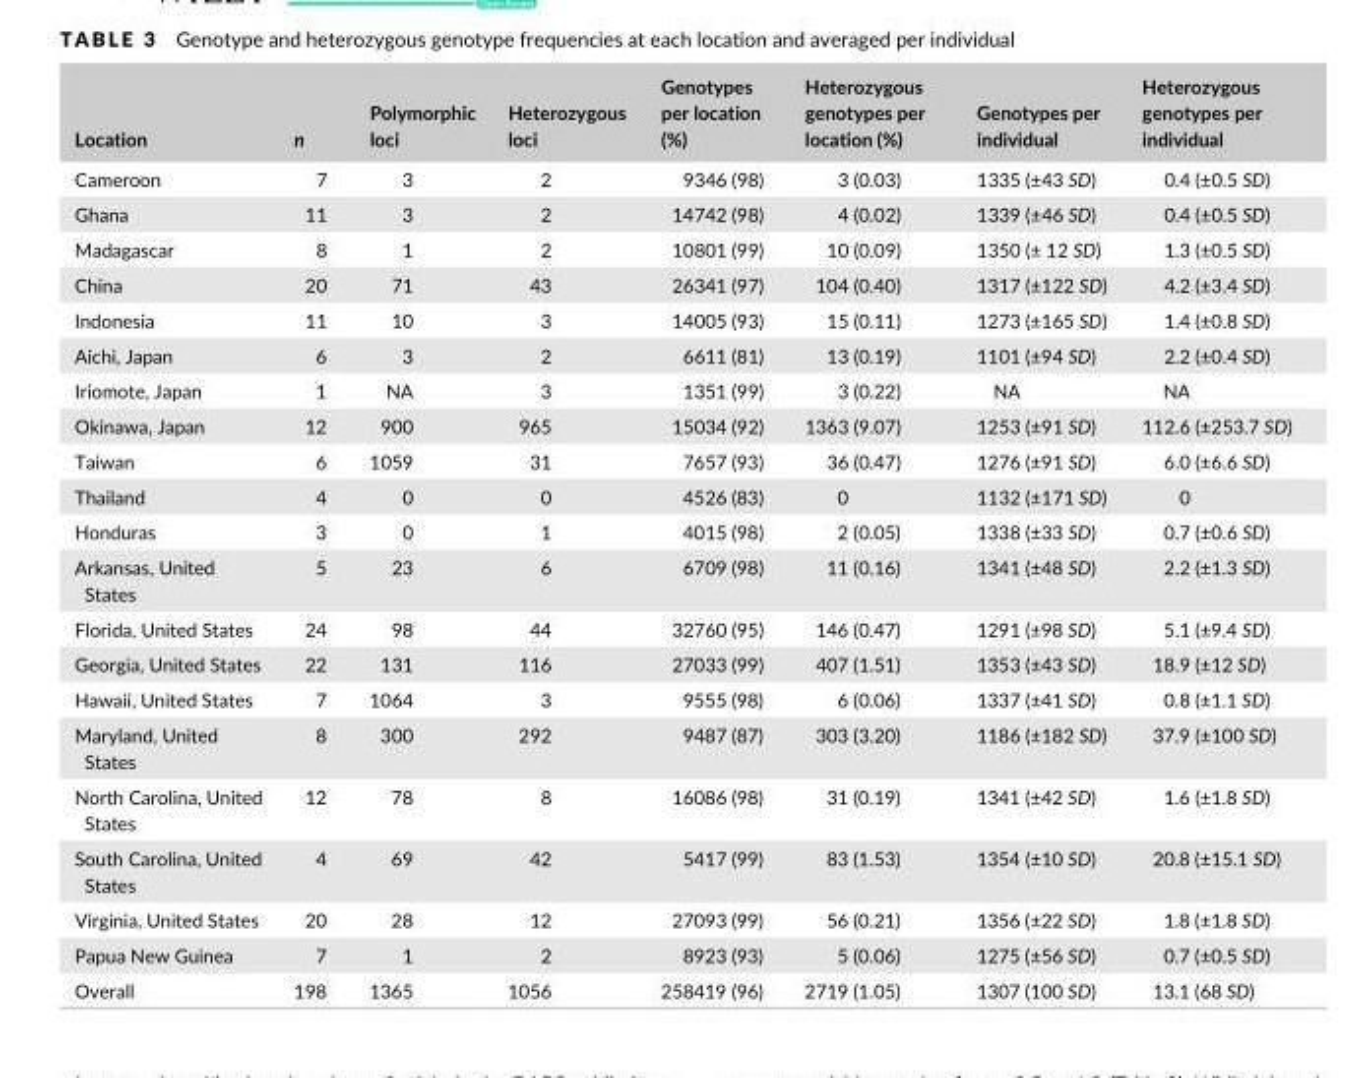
<table><thead><tr><td>Location</td><td>n</td><td>Polymorphic loci</td><td>Heterozygous loci</td><td>Genotypes per location (%)</td><td>Heterozygous genotypes per location (%)</td><td>Genotypes per individual</td><td>Heterozygous genotypes per individual</td></tr></thead><tbody><tr><td>Cameroon</td><td>7</td><td>3</td><td>2</td><td>9346 (98)</td><td>3 (0.03)</td><td>1335 (±43 SD)</td><td>0.4 (±0.5 SD)</td></tr><tr><td>Ghana</td><td>11</td><td>3</td><td>2</td><td>14742 (98)</td><td>4 (0.02)</td><td>1339 (±46 SD)</td><td>0.4 (±0.5 SD)</td></tr><tr><td>Madagascar</td><td>8</td><td>1</td><td>2</td><td>10801 (99)</td><td>10 (0.09)</td><td>1350 (± 12 SD)</td><td>1.3 (±0.5 SD)</td></tr><tr><td>China</td><td>20</td><td>71</td><td>43</td><td>26341 (97)</td><td>104 (0.40)</td><td>1317 (±122 SD)</td><td>4.2 (±3.4 SD)</td></tr><tr><td>Indonesia</td><td>11</td><td>10</td><td>3</td><td>14005 (93)</td><td>15 (0.11)</td><td>1273 (±165 SD)</td><td>1.4 (±0.8 SD)</td></tr><tr><td>Aichi, Japan</td><td>6</td><td>3</td><td>2</td><td>6611 (81)</td><td>13 (0.19)</td><td>1101 (±94 SD)</td><td>2.2 (±0.4 SD)</td></tr><tr><td>Iriomote, Japan</td><td>1</td><td>NA</td><td>3</td><td>1351 (99)</td><td>3 (0.22)</td><td>NA</td><td>NA</td></tr><tr><td>Okinawa, Japan</td><td>12</td><td>900</td><td>965</td><td>15034 (92)</td><td>1363 (9.07)</td><td>1253 (±91 SD)</td><td>112.6 (±253.7 SD)</td></tr><tr><td>Taiwan</td><td>6</td><td>1059</td><td>31</td><td>7657 (93)</td><td>36 (0.47)</td><td>1276 (±91 SD)</td><td>6.0 (±6.6 SD)</td></tr><tr><td>Thailand</td><td>4</td><td>0</td><td>0</td><td>4526 (83)</td><td>0</td><td>1132 (±171 SD)</td><td>0</td></tr><tr><td>Honduras</td><td>3</td><td>0</td><td>1</td><td>4015 (98)</td><td>2 (0.05)</td><td>1338 (±33 SD)</td><td>0.7 (±0.6 SD)</td></tr><tr><td>Arkansas, United States</td><td>5</td><td>23</td><td>6</td><td>6709 (98)</td><td>11 (0.16)</td><td>1341 (±48 SD)</td><td>2.2 (±1.3 SD)</td></tr><tr><td>Florida, United States</td><td>24</td><td>98</td><td>44</td><td>32760 (95)</td><td>146 (0.47)</td><td>1291 (±98 SD)</td><td>5.1 (±9.4 SD)</td></tr><tr><td>Georgia, United States</td><td>22</td><td>131</td><td>116</td><td>27033 (99)</td><td>407 (1.51)</td><td>1353 (±43 SD)</td><td>18.9 (±12 SD)</td></tr><tr><td>Hawaii, United States</td><td>7</td><td>1064</td><td>3</td><td>9555 (98)</td><td>6 (0.06)</td><td>1337 (±41 SD)</td><td>0.8 (±1.1 SD)</td></tr><tr><td>Maryland, United States</td><td>8</td><td>300</td><td>292</td><td>9487 (87)</td><td>303 (3.20)</td><td>1186 (±182 SD)</td><td>37.9 (±100 SD)</td></tr><tr><td>North Carolina, United States</td><td>12</td><td>78</td><td>8</td><td>16086 (98)</td><td>31 (0.19)</td><td>1341 (±42 SD)</td><td>1.6 (±1.8 SD)</td></tr><tr><td>South Carolina, United States</td><td>4</td><td>69</td><td>42</td><td>5417 (99)</td><td>83 (1.53)</td><td>1354 (±10 SD)</td><td>20.8 (±15.1 SD)</td></tr><tr><td>Virginia, United States</td><td>20</td><td>28</td><td>12</td><td>27093 (99)</td><td>56 (0.21)</td><td>1356 (±22 SD)</td><td>1.8 (±1.8 SD)</td></tr><tr><td>Papua New Guinea</td><td>7</td><td>1</td><td>2</td><td>8923 (93)</td><td>5 (0.06)</td><td>1275 (±56 SD)</td><td>0.7 (±0.5 SD)</td></tr><tr><td>Overall</td><td>198</td><td>1365</td><td>1056</td><td>258419 (96)</td><td>2719 (1.05)</td><td>1307 (100 SD)</td><td>13.1 (68 SD)</td></tr></tbody></table>